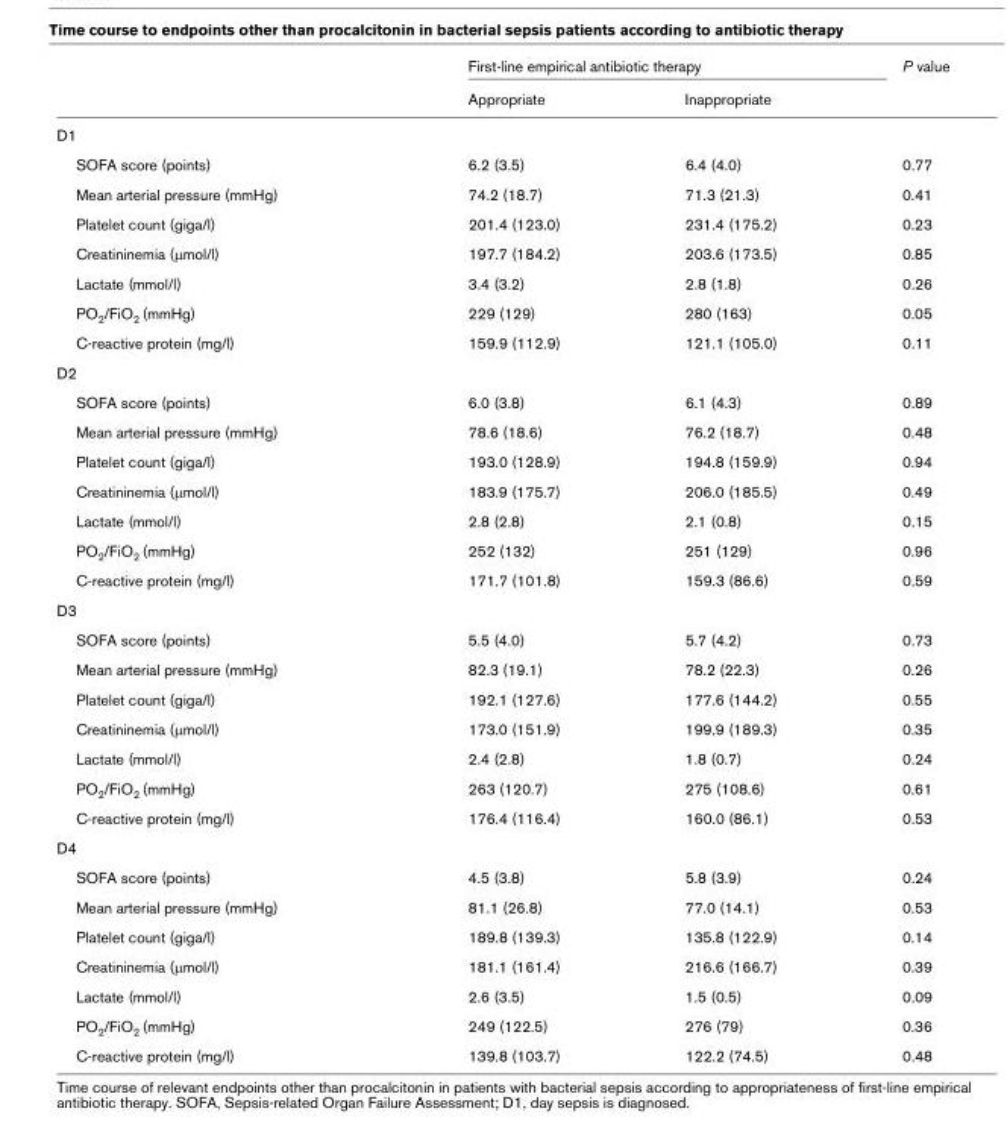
<table><thead><tr><td rowspan="2"></td><td colspan="2">First-line empirical antibiotic therapy</td><td rowspan="2">P value</td></tr><tr><td>Appropriate</td><td>Inappropriate</td></tr></thead><tbody><tr><td colspan="4">D1</td></tr><tr><td>SOFA score (points)</td><td>6.2 (3.5)</td><td>6.4 (4.0)</td><td>0.77</td></tr><tr><td>Mean arterial pressure (mmHg)</td><td>74.2 (18.7)</td><td>71.3 (21.3)</td><td>0.41</td></tr><tr><td>Platelet count (giga/l)</td><td>201.4 (123.0)</td><td>231.4 (175.2)</td><td>0.23</td></tr><tr><td>Creatininemia (μmol/l)</td><td>197.7 (184.2)</td><td>203.6 (173.5)</td><td>0.85</td></tr><tr><td>Lactate (mmol/l)</td><td>3.4 (3.2)</td><td>2.8 (1.8)</td><td>0.26</td></tr><tr><td>PO<sub>2</sub>/FiO<sub>2</sub> (mmHg)</td><td>229 (129)</td><td>280 (163)</td><td>0.05</td></tr><tr><td>C-reactive protein (mg/l)</td><td>159.9 (112.9)</td><td>121.1 (105.0)</td><td>0.11</td></tr><tr><td colspan="4">D2</td></tr><tr><td>SOFA score (points)</td><td>6.0 (3.8)</td><td>6.1 (4.3)</td><td>0.89</td></tr><tr><td>Mean arterial pressure (mmHg)</td><td>78.6 (18.6)</td><td>76.2 (18.7)</td><td>0.48</td></tr><tr><td>Platelet count (giga/l)</td><td>193.0 (128.9)</td><td>194.8 (159.9)</td><td>0.94</td></tr><tr><td>Creatininemia (μmol/l)</td><td>183.9 (175.7)</td><td>206.0 (185.5)</td><td>0.49</td></tr><tr><td>Lactate (mmol/l)</td><td>2.8 (2.8)</td><td>2.1 (0.8)</td><td>0.15</td></tr><tr><td>PO<sub>2</sub>/FiO<sub>2</sub> (mmHg)</td><td>252 (132)</td><td>251 (129)</td><td>0.96</td></tr><tr><td>C-reactive protein (mg/l)</td><td>171.7 (101.8)</td><td>159.3 (86.6)</td><td>0.59</td></tr><tr><td colspan="4">D3</td></tr><tr><td>SOFA score (points)</td><td>5.5 (4.0)</td><td>5.7 (4.2)</td><td>0.73</td></tr><tr><td>Mean arterial pressure (mmHg)</td><td>82.3 (19.1)</td><td>78.2 (22.3)</td><td>0.26</td></tr><tr><td>Platelet count (giga/l)</td><td>192.1 (127.6)</td><td>177.6 (144.2)</td><td>0.55</td></tr><tr><td>Creatininemia (μmol/l)</td><td>173.0 (151.9)</td><td>199.9 (189.3)</td><td>0.35</td></tr><tr><td>Lactate (mmol/l)</td><td>2.4 (2.8)</td><td>1.8 (0.7)</td><td>0.24</td></tr><tr><td>PO<sub>2</sub>/FiO<sub>2</sub> (mmHg)</td><td>263 (120.7)</td><td>275 (108.6)</td><td>0.61</td></tr><tr><td>C-reactive protein (mg/l)</td><td>176.4 (116.4)</td><td>160.0 (86.1)</td><td>0.53</td></tr><tr><td colspan="4">D4</td></tr><tr><td>SOFA score (points)</td><td>4.5 (3.8)</td><td>5.8 (3.9)</td><td>0.24</td></tr><tr><td>Mean arterial pressure (mmHg)</td><td>81.1 (26.8)</td><td>77.0 (14.1)</td><td>0.53</td></tr><tr><td>Platelet count (giga/l)</td><td>189.8 (139.3)</td><td>135.8 (122.9)</td><td>0.14</td></tr><tr><td>Creatininemia (μmol/l)</td><td>181.1 (161.4)</td><td>216.6 (166.7)</td><td>0.39</td></tr><tr><td>Lactate (mmol/l)</td><td>2.6 (3.5)</td><td>1.5 (0.5)</td><td>0.09</td></tr><tr><td>PO<sub>2</sub>/FiO<sub>2</sub> (mmHg)</td><td>249 (122.5)</td><td>276 (79)</td><td>0.36</td></tr><tr><td>C-reactive protein (mg/l)</td><td>139.8 (103.7)</td><td>122.2 (74.5)</td><td>0.48</td></tr></tbody></table>